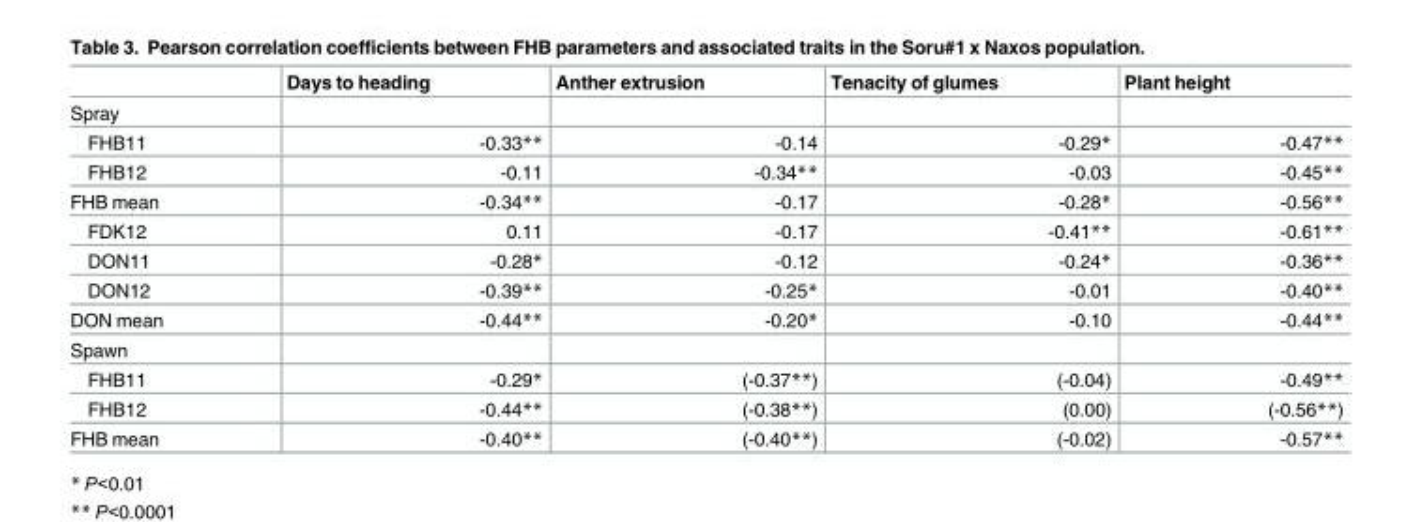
<table><thead><tr><td></td><td>Days to heading</td><td>Anther extrusion</td><td>Tenacity of glumes</td><td>Plant height</td></tr></thead><tbody><tr><td colspan="5">Spray</td></tr><tr><td>FHB11</td><td>-0.33**</td><td>-0.14</td><td>-0.29*</td><td>-0.47**</td></tr><tr><td>FHB12</td><td>-0.11</td><td>-0.34**</td><td>-0.03</td><td>-0.45**</td></tr><tr><td>FHB mean</td><td>-0.34**</td><td>-0.17</td><td>-0.28*</td><td>-0.56**</td></tr><tr><td>FDK12</td><td>0.11</td><td>-0.17</td><td>-0.41**</td><td>-0.61**</td></tr><tr><td>DON11</td><td>-0.28*</td><td>-0.12</td><td>-0.24*</td><td>-0.36**</td></tr><tr><td>DON12</td><td>-0.39**</td><td>-0.25*</td><td>-0.01</td><td>-0.40**</td></tr><tr><td>DON mean</td><td>-0.44**</td><td>-0.20*</td><td>-0.10</td><td>-0.44**</td></tr><tr><td colspan="5">Spawn</td></tr><tr><td>FHB11</td><td>-0.29*</td><td>(-0.37**)</td><td>(-0.04)</td><td>-0.49**</td></tr><tr><td>FHB12</td><td>-0.44**</td><td>(-0.38**)</td><td>(0.00)</td><td>(-0.56**)</td></tr><tr><td>FHB mean</td><td>-0.40**</td><td>(-0.40**)</td><td>(-0.02)</td><td>-0.57**</td></tr></tbody></table>